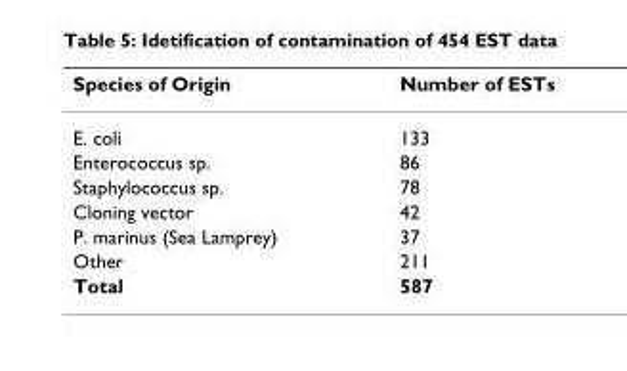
<table><thead><tr><td>Species of Origin</td><td>Number of ESTs</td></tr></thead><tbody><tr><td>E. coli</td><td>133</td></tr><tr><td>Enterococcus sp.</td><td>86</td></tr><tr><td>Staphylococcus sp.</td><td>78</td></tr><tr><td>Cloning vector</td><td>42</td></tr><tr><td>P. marinus (Sea Lamprey)</td><td>37</td></tr><tr><td>Other</td><td>211</td></tr><tr><td>Total</td><td>587</td></tr></tbody></table>